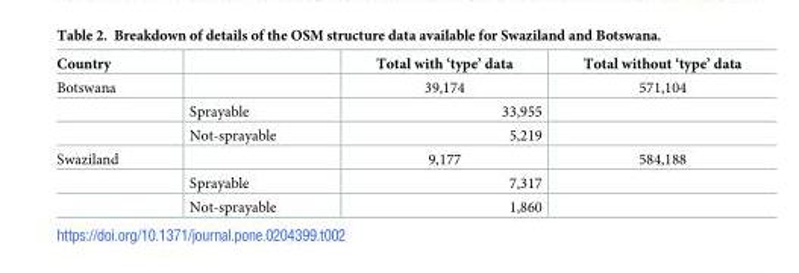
<table><thead><tr><td>Country</td><td></td><td>Total with ‘type’ data</td><td>Total without ‘type’ data</td></tr></thead><tbody><tr><td rowspan="3">Botswana</td><td></td><td>39,174</td><td>571,104</td></tr><tr><td>Sprayable</td><td>33,955</td><td></td></tr><tr><td>Not-sprayable</td><td>5,219</td><td></td></tr><tr><td rowspan="3">Swaziland</td><td></td><td>9,177</td><td>584,188</td></tr><tr><td>Sprayable</td><td>7,317</td><td></td></tr><tr><td>Not-sprayable</td><td>1,860</td><td></td></tr></tbody></table>